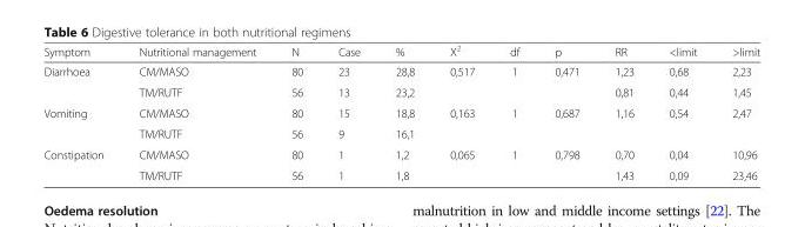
<table><thead><tr><td>Symptom</td><td>Nutritional management</td><td>N</td><td>Case</td><td>%</td><td>X<sup>2</sup></td><td>df</td><td>p</td><td>RR</td><td>&lt;limit</td><td>&gt;limit</td></tr></thead><tbody><tr><td rowspan="2">Diarrhoea</td><td>CM/MASO</td><td>80</td><td>23</td><td>28,8</td><td>0,517</td><td>1</td><td>0,471</td><td>1,23</td><td>0,68</td><td>2,23</td></tr><tr><td>TM/RUTF</td><td>56</td><td>13</td><td>23,2</td><td></td><td></td><td></td><td>0,81</td><td>0,44</td><td>1,45</td></tr><tr><td rowspan="2">Vomiting</td><td>CM/MASO</td><td>80</td><td>15</td><td>18,8</td><td>0,163</td><td>1</td><td>0,687</td><td>1,16</td><td>0,54</td><td>2,47</td></tr><tr><td>TM/RUTF</td><td>56</td><td>9</td><td>16,1</td><td></td><td></td><td></td><td></td><td></td><td></td></tr><tr><td rowspan="2">Constipation</td><td>CM/MASO</td><td>80</td><td>1</td><td>1,2</td><td>0,065</td><td>1</td><td>0,798</td><td>0,70</td><td>0,04</td><td>10,96</td></tr><tr><td>TM/RUTF</td><td>56</td><td>1</td><td>1,8</td><td></td><td></td><td></td><td>1,43</td><td>0,09</td><td>23,46</td></tr></tbody></table>